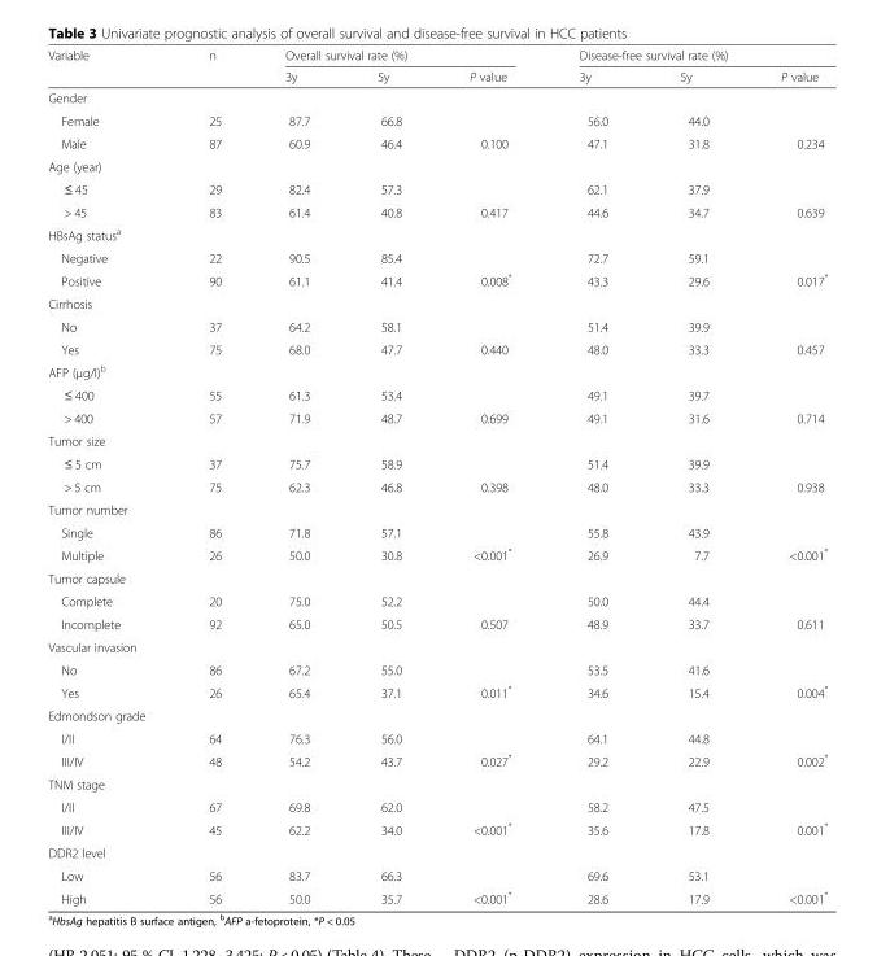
<table><thead><tr><td rowspan="2">Variable</td><td rowspan="2">n</td><td colspan="3">Overall survival rate (%)</td><td colspan="3">Disease-free survival rate (%)</td></tr><tr><td>3y</td><td>5y</td><td>P value</td><td>3y</td><td>5y</td><td>P value</td></tr></thead><tbody><tr><td colspan="8">Gender</td></tr><tr><td>Female</td><td>25</td><td>87.7</td><td>66.8</td><td></td><td>56.0</td><td>44.0</td><td></td></tr><tr><td>Male</td><td>87</td><td>60.9</td><td>46.4</td><td>0.100</td><td>47.1</td><td>31.8</td><td>0.234</td></tr><tr><td colspan="8">Age (year)</td></tr><tr><td>≤ 45</td><td>29</td><td>82.4</td><td>57.3</td><td></td><td>62.1</td><td>37.9</td><td></td></tr><tr><td>&gt; 45</td><td>83</td><td>61.4</td><td>40.8</td><td>0.417</td><td>44.6</td><td>34.7</td><td>0.639</td></tr><tr><td colspan="8">HBsAg status<sup>a</sup></td></tr><tr><td>Negative</td><td>22</td><td>90.5</td><td>85.4</td><td></td><td>72.7</td><td>59.1</td><td></td></tr><tr><td>Positive</td><td>90</td><td>61.1</td><td>41.4</td><td>0.008*</td><td>43.3</td><td>29.6</td><td>0.017*</td></tr><tr><td colspan="8">Cirrhosis</td></tr><tr><td>No</td><td>37</td><td>64.2</td><td>58.1</td><td></td><td>51.4</td><td>39.9</td><td></td></tr><tr><td>Yes</td><td>75</td><td>68.0</td><td>47.7</td><td>0.440</td><td>48.0</td><td>33.3</td><td>0.457</td></tr><tr><td colspan="8">AFP (μg/l)<sup>b</sup></td></tr><tr><td>≤ 400</td><td>55</td><td>61.3</td><td>53.4</td><td></td><td>49.1</td><td>39.7</td><td></td></tr><tr><td>&gt; 400</td><td>57</td><td>71.9</td><td>48.7</td><td>0.699</td><td>49.1</td><td>31.6</td><td>0.714</td></tr><tr><td colspan="8">Tumor size</td></tr><tr><td>≤ 5 cm</td><td>37</td><td>75.7</td><td>58.9</td><td></td><td>51.4</td><td>39.9</td><td></td></tr><tr><td>&gt; 5 cm</td><td>75</td><td>62.3</td><td>46.8</td><td>0.398</td><td>48.0</td><td>33.3</td><td>0.938</td></tr><tr><td colspan="8">Tumor number</td></tr><tr><td>Single</td><td>86</td><td>71.8</td><td>57.1</td><td></td><td>55.8</td><td>43.9</td><td></td></tr><tr><td>Multiple</td><td>26</td><td>50.0</td><td>30.8</td><td>&lt;0.001*</td><td>26.9</td><td>7.7</td><td>&lt;0.001*</td></tr><tr><td colspan="8">Tumor capsule</td></tr><tr><td>Complete</td><td>20</td><td>75.0</td><td>52.2</td><td></td><td>50.0</td><td>44.4</td><td></td></tr><tr><td>Incomplete</td><td>92</td><td>65.0</td><td>50.5</td><td>0.507</td><td>48.9</td><td>33.7</td><td>0.611</td></tr><tr><td colspan="8">Vascular invasion</td></tr><tr><td>No</td><td>86</td><td>67.2</td><td>55.0</td><td></td><td>53.5</td><td>41.6</td><td></td></tr><tr><td>Yes</td><td>26</td><td>65.4</td><td>37.1</td><td>0.011*</td><td>34.6</td><td>15.4</td><td>0.004*</td></tr><tr><td colspan="8">Edmondson grade</td></tr><tr><td>I/II</td><td>64</td><td>76.3</td><td>56.0</td><td></td><td>64.1</td><td>44.8</td><td></td></tr><tr><td>III/IV</td><td>48</td><td>54.2</td><td>43.7</td><td>0.027*</td><td>29.2</td><td>22.9</td><td>0.002*</td></tr><tr><td colspan="8">TNM stage</td></tr><tr><td>I/II</td><td>67</td><td>69.8</td><td>62.0</td><td></td><td>58.2</td><td>47.5</td><td></td></tr><tr><td>III/IV</td><td>45</td><td>62.2</td><td>34.0</td><td>&lt;0.001*</td><td>35.6</td><td>17.8</td><td>0.001*</td></tr><tr><td colspan="8">DDR2 level</td></tr><tr><td>Low</td><td>56</td><td>83.7</td><td>66.3</td><td></td><td>69.6</td><td>53.1</td><td></td></tr><tr><td>High</td><td>56</td><td>50.0</td><td>35.7</td><td>&lt;0.001*</td><td>28.6</td><td>17.9</td><td>&lt;0.001*</td></tr></tbody></table>